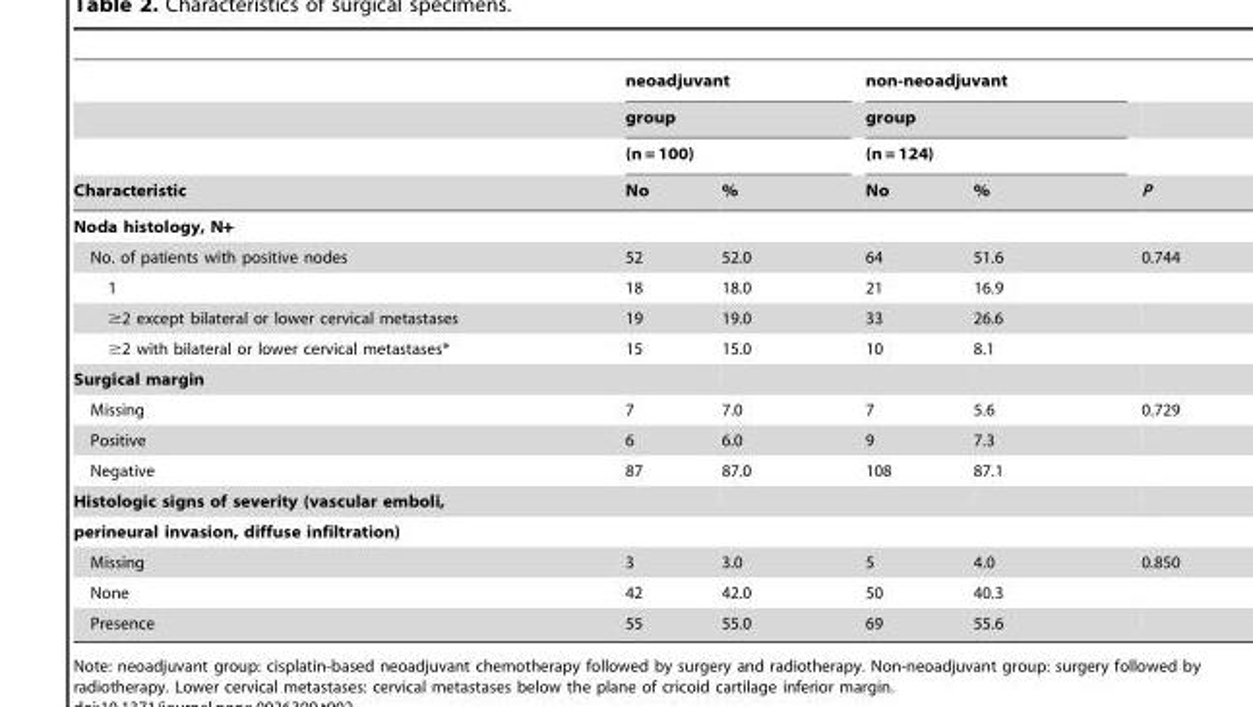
<table><thead><tr><td rowspan="4">Characteristic</td><td rowspan="3" colspan="2">neoadjuvant group (n = 100)</td><td rowspan="3" colspan="2">non-neoadjuvant group (n = 124)</td><td rowspan="4">P</td></tr><tr></tr><tr></tr><tr><td>No</td><td>%</td><td>No</td><td>%</td></tr></thead><tbody><tr><td colspan="6">Noda histology, N+</td></tr><tr><td>No. of patients with positive nodes</td><td>52</td><td>52.0</td><td>64</td><td>51.6</td><td>0.744</td></tr><tr><td>1</td><td>18</td><td>18.0</td><td>21</td><td>16.9</td><td></td></tr><tr><td>≥2 except bilateral or lower cervical metastases</td><td>19</td><td>19.0</td><td>33</td><td>26.6</td><td></td></tr><tr><td>≥2 with bilateral or lower cervical metastases*</td><td>15</td><td>15.0</td><td>10</td><td>8.1</td><td></td></tr><tr><td colspan="6">Surgical margin</td></tr><tr><td>Missing</td><td>7</td><td>7.0</td><td>7</td><td>5.6</td><td>0.729</td></tr><tr><td>Positive</td><td>6</td><td>6.0</td><td>9</td><td>7.3</td><td></td></tr><tr><td>Negative</td><td>87</td><td>87.0</td><td>108</td><td>87.1</td><td></td></tr><tr><td colspan="6">Histologic signs of severity (vascular emboli,</td></tr><tr><td colspan="6">perineural invasion, diffuse infiltration)</td></tr><tr><td>Missing</td><td>3</td><td>3.0</td><td>5</td><td>4.0</td><td>0.850</td></tr><tr><td>None</td><td>42</td><td>42.0</td><td>50</td><td>40.3</td><td></td></tr><tr><td>Presence</td><td>55</td><td>55.0</td><td>69</td><td>55.6</td><td></td></tr></tbody></table>